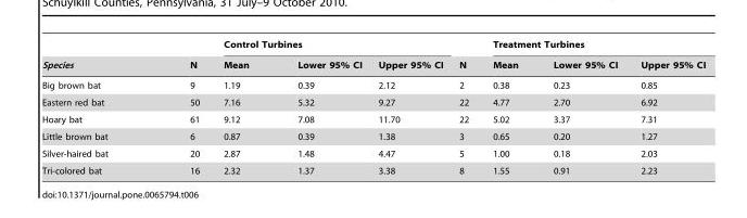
<table><thead><tr><td rowspan="2">Species</td><td rowspan="2">N</td><td colspan="3">Control Turbines</td><td rowspan="2">N</td><td colspan="3">Treatment Turbines</td></tr><tr><td>Mean</td><td>Lower 95% CI</td><td>Upper 95% CI</td><td>Mean</td><td>Lower 95% CI</td><td>Upper 95% CI</td></tr></thead><tbody><tr><td>Big brown bat</td><td>9</td><td>1.19</td><td>0.39</td><td>2.12</td><td>2</td><td>0.38</td><td>0.23</td><td>0.85</td></tr><tr><td>Eastern red bat</td><td>50</td><td>7.16</td><td>5.32</td><td>9.27</td><td>22</td><td>4.77</td><td>2.70</td><td>6.92</td></tr><tr><td>Hoary bat</td><td>61</td><td>9.12</td><td>7.08</td><td>11.70</td><td>22</td><td>5.02</td><td>3.37</td><td>7.31</td></tr><tr><td>Little brown bat</td><td>6</td><td>0.87</td><td>0.39</td><td>1.38</td><td>3</td><td>0.65</td><td>0.20</td><td>1.27</td></tr><tr><td>Silver-haired bat</td><td>20</td><td>2.87</td><td>1.48</td><td>4.47</td><td>5</td><td>1.00</td><td>0.18</td><td>2.03</td></tr><tr><td>Tri-colored bat</td><td>16</td><td>2.32</td><td>1.37</td><td>3.38</td><td>8</td><td>1.55</td><td>0.91</td><td>2.23</td></tr></tbody></table>